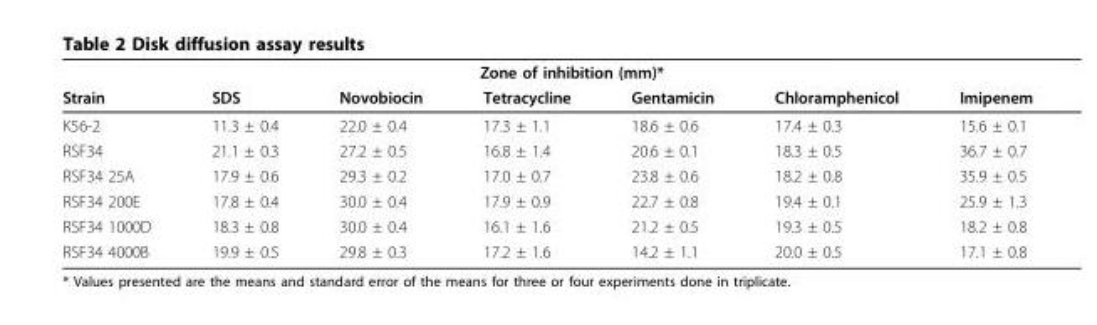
<table><thead><tr><td colspan="7">Zone of inhibition (mm)*</td></tr><tr><td>Strain</td><td>SDS</td><td>Novobiocin</td><td>Tetracycline</td><td>Gentamicin</td><td>Chloramphenicol</td><td>Imipenem</td></tr></thead><tbody><tr><td>K56-2</td><td>11.3 ± 0.4</td><td>22.0 ± 0.4</td><td>17.3 ± 1.1</td><td>18.6 ± 0.6</td><td>17.4 ± 0.3</td><td>15.6 ± 0.1</td></tr><tr><td>RSF34</td><td>21.1 ± 0.3</td><td>27.2 ± 0.5</td><td>16.8 ± 1.4</td><td>20.6 ± 0.1</td><td>18.3 ± 0.5</td><td>36.7 ± 0.7</td></tr><tr><td>RSF34 25A</td><td>17.9 ± 0.6</td><td>29.3 ± 0.2</td><td>17.0 ± 0.7</td><td>23.8 ± 0.6</td><td>18.2 ± 0.8</td><td>35.9 ± 0.5</td></tr><tr><td>RSF34 200E</td><td>17.8 ± 0.4</td><td>30.0 ± 0.4</td><td>17.9 ± 0.9</td><td>22.7 ± 0.8</td><td>19.4 ± 0.1</td><td>25.9 ± 1.3</td></tr><tr><td>RSF34 1000D</td><td>18.3 ± 0.8</td><td>30.0 ± 0.4</td><td>16.1 ± 1.6</td><td>21.2 ± 0.5</td><td>19.3 ± 0.5</td><td>18.2 ± 0.8</td></tr><tr><td>RSF34 4000B</td><td>19.9 ± 0.5</td><td>29.8 ± 0.3</td><td>17.2 ± 1.6</td><td>14.2 ± 1.1</td><td>20.0 ± 0.5</td><td>17.1 ± 0.8</td></tr></tbody></table>